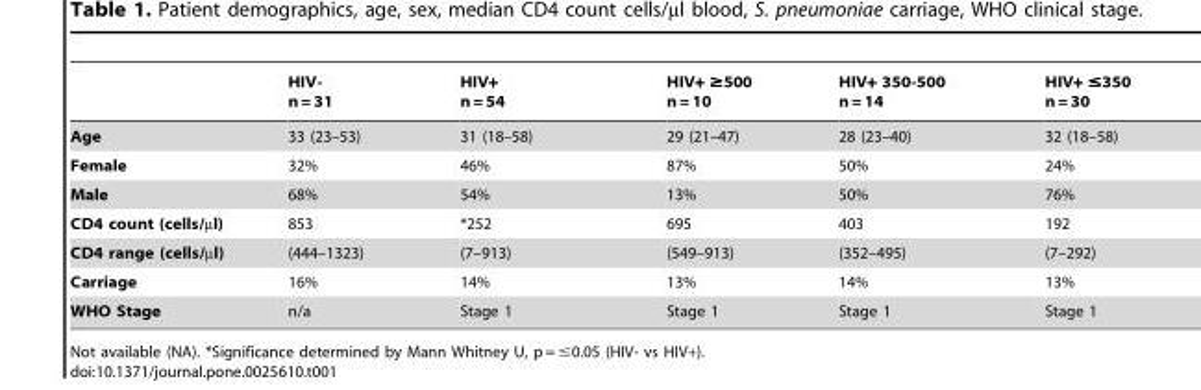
<table><thead><tr><td></td><td>HIV- n = 31</td><td>HIV+ n = 54</td><td>HIV+ ≥500 n = 10</td><td>HIV+ 350-500 n = 14</td><td>HIV+ ≤350 n = 30</td></tr></thead><tbody><tr><td>Age</td><td>33 (23–53)</td><td>31 (18–58)</td><td>29 (21–47)</td><td>28 (23–40)</td><td>32 (18–58)</td></tr><tr><td>Female</td><td>32%</td><td>46%</td><td>87%</td><td>50%</td><td>24%</td></tr><tr><td>Male</td><td>68%</td><td>54%</td><td>13%</td><td>50%</td><td>76%</td></tr><tr><td>CD4 count (cells/µl)</td><td>853</td><td>*252</td><td>695</td><td>403</td><td>192</td></tr><tr><td>CD4 range (cells/µl)</td><td>(444–1323)</td><td>(7–913)</td><td>(549–913)</td><td>(352–495)</td><td>(7–292)</td></tr><tr><td>Carriage</td><td>16%</td><td>14%</td><td>13%</td><td>14%</td><td>13%</td></tr><tr><td>WHO Stage</td><td>n/a</td><td>Stage 1</td><td>Stage 1</td><td>Stage 1</td><td>Stage 1</td></tr></tbody></table>